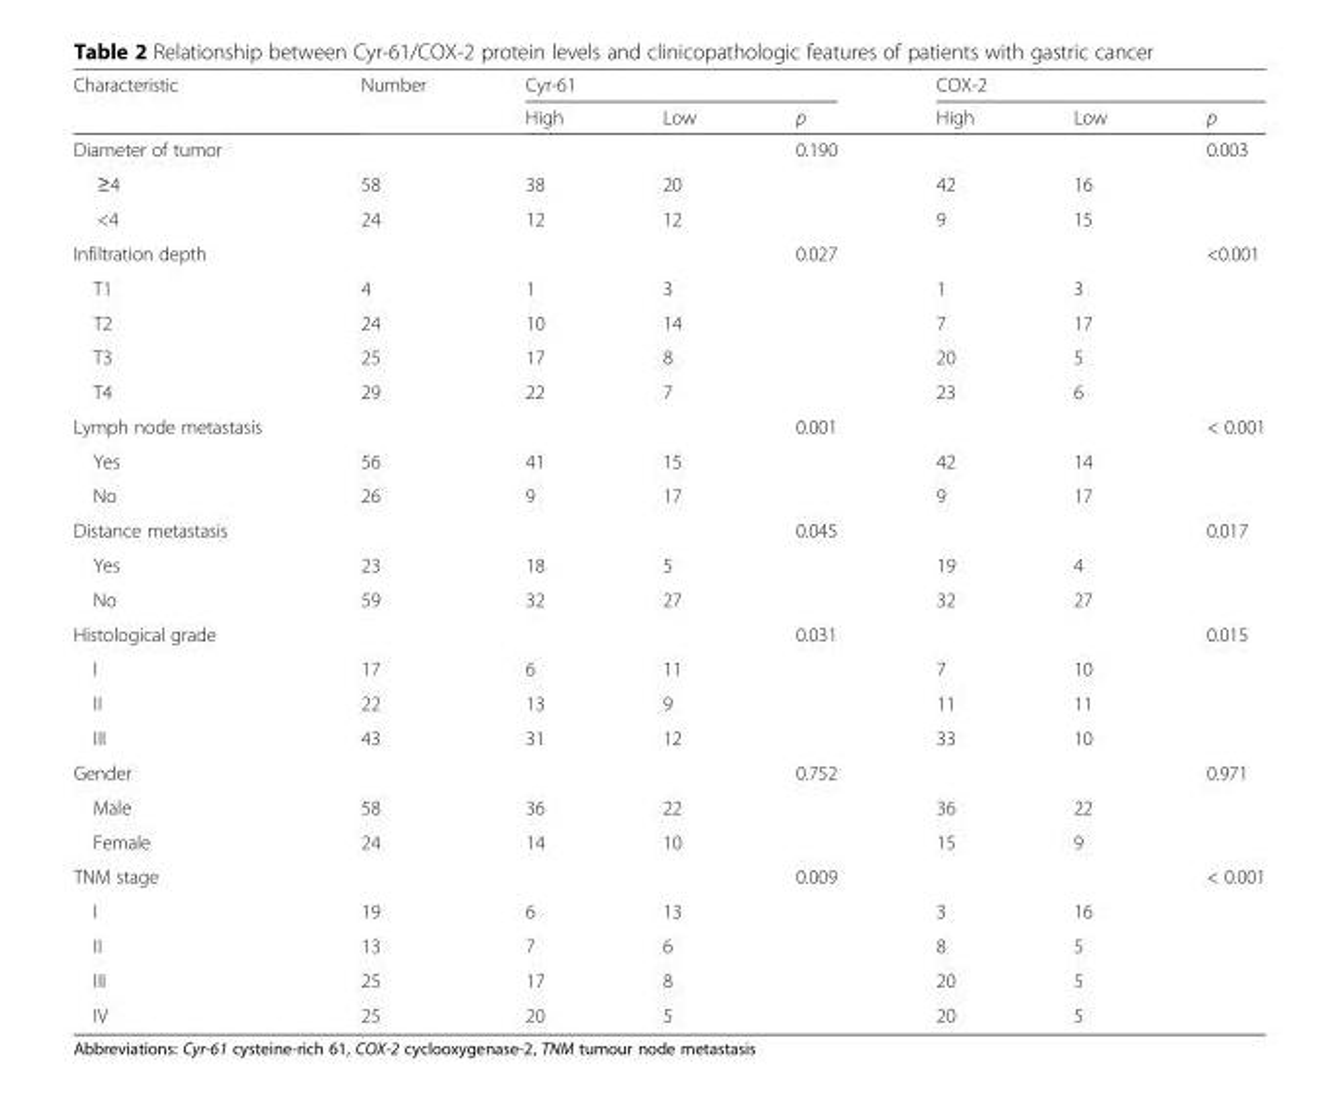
<table><thead><tr><td rowspan="2">Characteristic</td><td rowspan="2">Number</td><td colspan="3">Cyr-61</td><td colspan="3">COX-2</td></tr><tr><td>High</td><td>Low</td><td>p</td><td>High</td><td>Low</td><td>p</td></tr></thead><tbody><tr><td>Diameter of tumor</td><td></td><td></td><td></td><td>0.190</td><td></td><td></td><td>0.003</td></tr><tr><td>≥4</td><td>58</td><td>38</td><td>20</td><td></td><td>42</td><td>16</td><td></td></tr><tr><td>&lt;4</td><td>24</td><td>12</td><td>12</td><td></td><td>9</td><td>15</td><td></td></tr><tr><td>Infiltration depth</td><td></td><td></td><td></td><td>0.027</td><td></td><td></td><td>&lt;0.001</td></tr><tr><td>T1</td><td>4</td><td>1</td><td>3</td><td></td><td>1</td><td>3</td><td></td></tr><tr><td>T2</td><td>24</td><td>10</td><td>14</td><td></td><td>7</td><td>17</td><td></td></tr><tr><td>T3</td><td>25</td><td>17</td><td>8</td><td></td><td>20</td><td>5</td><td></td></tr><tr><td>T4</td><td>29</td><td>22</td><td>7</td><td></td><td>23</td><td>6</td><td></td></tr><tr><td>Lymph node metastasis</td><td></td><td></td><td></td><td>0.001</td><td></td><td></td><td>&lt; 0.001</td></tr><tr><td>Yes</td><td>56</td><td>41</td><td>15</td><td></td><td>42</td><td>14</td><td></td></tr><tr><td>No</td><td>26</td><td>9</td><td>17</td><td></td><td>9</td><td>17</td><td></td></tr><tr><td>Distance metastasis</td><td></td><td></td><td></td><td>0.045</td><td></td><td></td><td>0.017</td></tr><tr><td>Yes</td><td>23</td><td>18</td><td>5</td><td></td><td>19</td><td>4</td><td></td></tr><tr><td>No</td><td>59</td><td>32</td><td>27</td><td></td><td>32</td><td>27</td><td></td></tr><tr><td>Histological grade</td><td></td><td></td><td></td><td>0.031</td><td></td><td></td><td>0.015</td></tr><tr><td>I</td><td>17</td><td>6</td><td>11</td><td></td><td>7</td><td>10</td><td></td></tr><tr><td>II</td><td>22</td><td>13</td><td>9</td><td></td><td>11</td><td>11</td><td></td></tr><tr><td>III</td><td>43</td><td>31</td><td>12</td><td></td><td>33</td><td>10</td><td></td></tr><tr><td>Gender</td><td></td><td></td><td></td><td>0.752</td><td></td><td></td><td>0.971</td></tr><tr><td>Male</td><td>58</td><td>36</td><td>22</td><td></td><td>36</td><td>22</td><td></td></tr><tr><td>Female</td><td>24</td><td>14</td><td>10</td><td></td><td>15</td><td>9</td><td></td></tr><tr><td>TNM stage</td><td></td><td></td><td></td><td>0.009</td><td></td><td></td><td>&lt; 0.001</td></tr><tr><td>I</td><td>19</td><td>6</td><td>13</td><td></td><td>3</td><td>16</td><td></td></tr><tr><td>II</td><td>13</td><td>7</td><td>6</td><td></td><td>8</td><td>5</td><td></td></tr><tr><td>III</td><td>25</td><td>17</td><td>8</td><td></td><td>20</td><td>5</td><td></td></tr><tr><td>IV</td><td>25</td><td>20</td><td>5</td><td></td><td>20</td><td>5</td><td></td></tr></tbody></table>